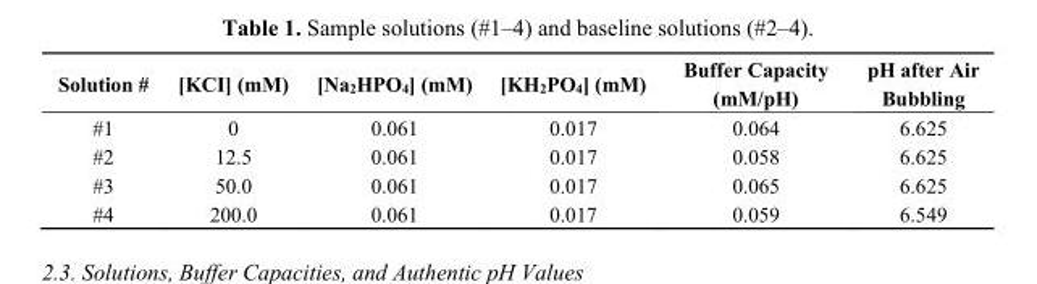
<table><thead><tr><td>Solution #</td><td>[KCI] (mM)</td><td>[Na<sub>2</sub>HPO<sub>4</sub>] (mM)</td><td>[KH<sub>2</sub>PO<sub>4</sub>] (mM)</td><td>Buffer Capacity (mM/pH)</td><td>pH after Air Bubbling</td></tr></thead><tbody><tr><td>#1</td><td>0</td><td>0.061</td><td>0.017</td><td>0.064</td><td>6.625</td></tr><tr><td>#2</td><td>12.5</td><td>0.061</td><td>0.017</td><td>0.058</td><td>6.625</td></tr><tr><td>#3</td><td>50.0</td><td>0.061</td><td>0.017</td><td>0.065</td><td>6.625</td></tr><tr><td>#4</td><td>200.0</td><td>0.061</td><td>0.017</td><td>0.059</td><td>6.549</td></tr></tbody></table>